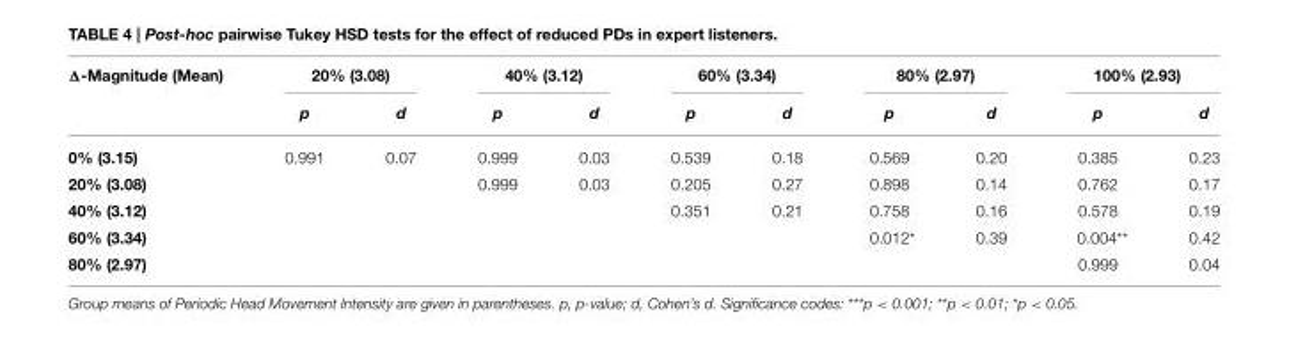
<table><thead><tr><td rowspan="2">Δ-Magnitude (Mean)</td><td colspan="2">20% (3.08)</td><td colspan="2">40% (3.12)</td><td colspan="2">60% (3.34)</td><td colspan="2">80% (2.97)</td><td colspan="2">100% (2.93)</td></tr><tr><td>p</td><td>d</td><td>p</td><td>d</td><td>p</td><td>d</td><td>p</td><td>d</td><td>p</td><td>d</td></tr></thead><tbody><tr><td>0% (3.15)</td><td>0.991</td><td>0.07</td><td>0.999</td><td>0.03</td><td>0.539</td><td>0.18</td><td>0.569</td><td>0.20</td><td>0.385</td><td>0.23</td></tr><tr><td>20% (3.08)</td><td></td><td></td><td>0.999</td><td>0.03</td><td>0.205</td><td>0.27</td><td>0.898</td><td>0.14</td><td>0.762</td><td>0.17</td></tr><tr><td>40% (3.12)</td><td></td><td></td><td></td><td></td><td>0.351</td><td>0.21</td><td>0.758</td><td>0.16</td><td>0.578</td><td>0.19</td></tr><tr><td>60% (3.34)</td><td></td><td></td><td></td><td></td><td></td><td></td><td>0.012*</td><td>0.39</td><td>0.004**</td><td>0.42</td></tr><tr><td>80% (2.97)</td><td></td><td></td><td></td><td></td><td></td><td></td><td></td><td></td><td>0.999</td><td>0.04</td></tr></tbody></table>